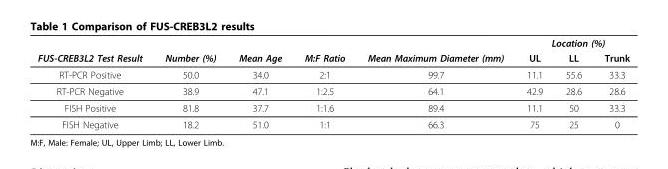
<table><thead><tr><td rowspan="2">FUS-CREB3L2 Test Result</td><td rowspan="2">Number (%)</td><td rowspan="2">Mean Age</td><td rowspan="2">M:F Ratio</td><td rowspan="2">Mean Maximum Diameter (mm)</td><td colspan="3">Location (%)</td></tr><tr><td>UL</td><td>LL</td><td>Trunk</td></tr></thead><tbody><tr><td>RT-PCR Positive</td><td>50.0</td><td>34.0</td><td>2:1</td><td>99.7</td><td>11.1</td><td>55.6</td><td>33.3</td></tr><tr><td>RT-PCR Negative</td><td>38.9</td><td>47.1</td><td>1:2.5</td><td>64.1</td><td>42.9</td><td>28.6</td><td>28.6</td></tr><tr><td>FISH Positive</td><td>81.8</td><td>37.7</td><td>1:1.6</td><td>89.4</td><td>11.1</td><td>50</td><td>33.3</td></tr><tr><td>FISH Negative</td><td>18.2</td><td>51.0</td><td>1:1</td><td>66.3</td><td>75</td><td>25</td><td>0</td></tr></tbody></table>